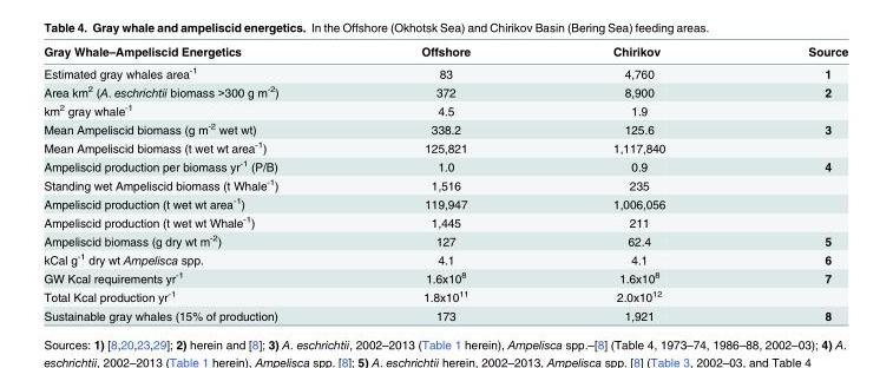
<table><thead><tr><td>Gray Whale–Ampeliscid Energetics</td><td>Offshore</td><td>Chirikov</td><td>Source</td></tr></thead><tbody><tr><td>Estimated gray whales area<sup>-1</sup></td><td>83</td><td>4,760</td><td>1</td></tr><tr><td>Area km<sup>2</sup> (A. eschrichtii biomass &gt;300 g m<sup>-2</sup>)</td><td>372</td><td>8,900</td><td>2</td></tr><tr><td>km<sup>2</sup> gray whale<sup>-1</sup></td><td>4.5</td><td>1.9</td><td></td></tr><tr><td>Mean Ampeliscid biomass (g m<sup>-2</sup> wet wt)</td><td>338.2</td><td>125.6</td><td>3</td></tr><tr><td>Mean Ampeliscid biomass (t wet wt area<sup>-1</sup>)</td><td>125,821</td><td>1,117,840</td><td></td></tr><tr><td>Ampeliscid production per biomass yr<sup>-1</sup> (P/B)</td><td>1.0</td><td>0.9</td><td>4</td></tr><tr><td>Standing wet Ampeliscid biomass (t Whale<sup>-1</sup>)</td><td>1,516</td><td>235</td><td></td></tr><tr><td>Ampeliscid production (t wet wt area<sup>-1</sup>)</td><td>119,947</td><td>1,006,056</td><td></td></tr><tr><td>Ampeliscid production (t wet wt Whale<sup>-1</sup>)</td><td>1,445</td><td>211</td><td></td></tr><tr><td>Ampeliscid biomass (g dry wt m<sup>-2</sup>)</td><td>127</td><td>62.4</td><td>5</td></tr><tr><td>kCal g<sup>-1</sup> dry wt Ampelisca spp.</td><td>4.1</td><td>4.1</td><td>6</td></tr><tr><td>GW Kcal requirements yr<sup>-1</sup></td><td>1.6x10<sup>8</sup></td><td>1.6x10<sup>8</sup></td><td>7</td></tr><tr><td>Total Kcal production yr<sup>-1</sup></td><td>1.8x10<sup>11</sup></td><td>2.0x10<sup>12</sup></td><td></td></tr><tr><td>Sustainable gray whales (15% of production)</td><td>173</td><td>1,921</td><td>8</td></tr></tbody></table>